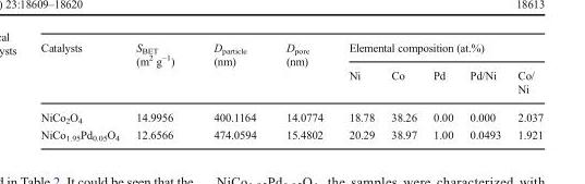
<table><thead><tr><td rowspan="2">Catalysts</td><td rowspan="2">S<sub>BET</sub> (m<sup>2</sup> g<sup>−1</sup>)</td><td rowspan="2">D<sub>particle</sub> (nm)</td><td rowspan="2">D<sub>pore</sub> (nm)</td><td colspan="5">Elemental composition (at.%)</td></tr><tr><td>Ni</td><td>Co</td><td>Pd</td><td>Pd/Ni</td><td>Co/ Ni</td></tr></thead><tbody><tr><td>NiCo<sub>2</sub>O<sub>4</sub></td><td>14.9956</td><td>400.1164</td><td>14.0774</td><td>18.78</td><td>38.26</td><td>0.00</td><td>0.000</td><td>2.037</td></tr><tr><td>NiCo<sub>1.95</sub>Pd<sub>0.05</sub>O<sub>4</sub></td><td>12.6566</td><td>474.0594</td><td>15.4802</td><td>20.29</td><td>38.97</td><td>1.00</td><td>0.0493</td><td>1.921</td></tr></tbody></table>